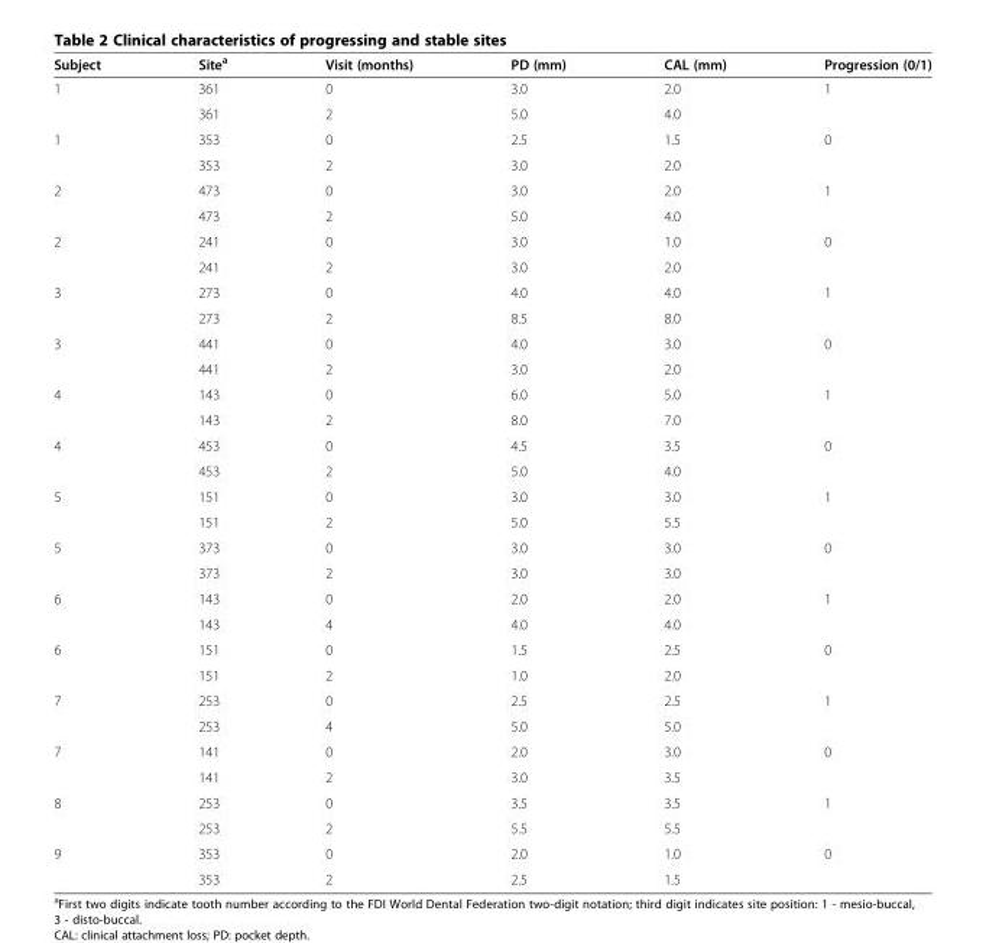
<table><thead><tr><td>Subject</td><td>Site<sup>a</sup></td><td>Visit (months)</td><td>PD (mm)</td><td>CAL (mm)</td><td>Progression (0/1)</td></tr></thead><tbody><tr><td rowspan="2">1</td><td>361</td><td>0</td><td>3.0</td><td>2.0</td><td>1</td></tr><tr><td>361</td><td>2</td><td>5.0</td><td>4.0</td><td></td></tr><tr><td rowspan="2">1</td><td>353</td><td>0</td><td>2.5</td><td>1.5</td><td>0</td></tr><tr><td>353</td><td>2</td><td>3.0</td><td>2.0</td><td></td></tr><tr><td rowspan="2">2</td><td>473</td><td>0</td><td>3.0</td><td>2.0</td><td>1</td></tr><tr><td>473</td><td>2</td><td>5.0</td><td>4.0</td><td></td></tr><tr><td rowspan="2">2</td><td>241</td><td>0</td><td>3.0</td><td>1.0</td><td>0</td></tr><tr><td>241</td><td>2</td><td>3.0</td><td>2.0</td><td></td></tr><tr><td rowspan="2">3</td><td>273</td><td>0</td><td>4.0</td><td>4.0</td><td>1</td></tr><tr><td>273</td><td>2</td><td>8.5</td><td>8.0</td><td></td></tr><tr><td rowspan="2">3</td><td>441</td><td>0</td><td>4.0</td><td>3.0</td><td>0</td></tr><tr><td>441</td><td>2</td><td>3.0</td><td>2.0</td><td></td></tr><tr><td rowspan="2">4</td><td>143</td><td>0</td><td>6.0</td><td>5.0</td><td>1</td></tr><tr><td>143</td><td>2</td><td>8.0</td><td>7.0</td><td></td></tr><tr><td rowspan="2">4</td><td>453</td><td>0</td><td>4.5</td><td>3.5</td><td>0</td></tr><tr><td>453</td><td>2</td><td>5.0</td><td>4.0</td><td></td></tr><tr><td rowspan="2">5</td><td>151</td><td>0</td><td>3.0</td><td>3.0</td><td>1</td></tr><tr><td>151</td><td>2</td><td>5.0</td><td>5.5</td><td></td></tr><tr><td rowspan="2">5</td><td>373</td><td>0</td><td>3.0</td><td>3.0</td><td>0</td></tr><tr><td>373</td><td>2</td><td>3.0</td><td>3.0</td><td></td></tr><tr><td rowspan="2">6</td><td>143</td><td>0</td><td>2.0</td><td>2.0</td><td>1</td></tr><tr><td>143</td><td>4</td><td>4.0</td><td>4.0</td><td></td></tr><tr><td rowspan="2">6</td><td>151</td><td>0</td><td>1.5</td><td>2.5</td><td>0</td></tr><tr><td>151</td><td>2</td><td>1.0</td><td>2.0</td><td></td></tr><tr><td rowspan="2">7</td><td>253</td><td>0</td><td>2.5</td><td>2.5</td><td>1</td></tr><tr><td>253</td><td>4</td><td>5.0</td><td>5.0</td><td></td></tr><tr><td rowspan="2">7</td><td>141</td><td>0</td><td>2.0</td><td>3.0</td><td>0</td></tr><tr><td>141</td><td>2</td><td>3.0</td><td>3.5</td><td></td></tr><tr><td rowspan="2">8</td><td>253</td><td>0</td><td>3.5</td><td>3.5</td><td>1</td></tr><tr><td>253</td><td>2</td><td>5.5</td><td>5.5</td><td></td></tr><tr><td rowspan="2">9</td><td>353</td><td>0</td><td>2.0</td><td>1.0</td><td>0</td></tr><tr><td>353</td><td>2</td><td>2.5</td><td>1.5</td><td></td></tr></tbody></table>